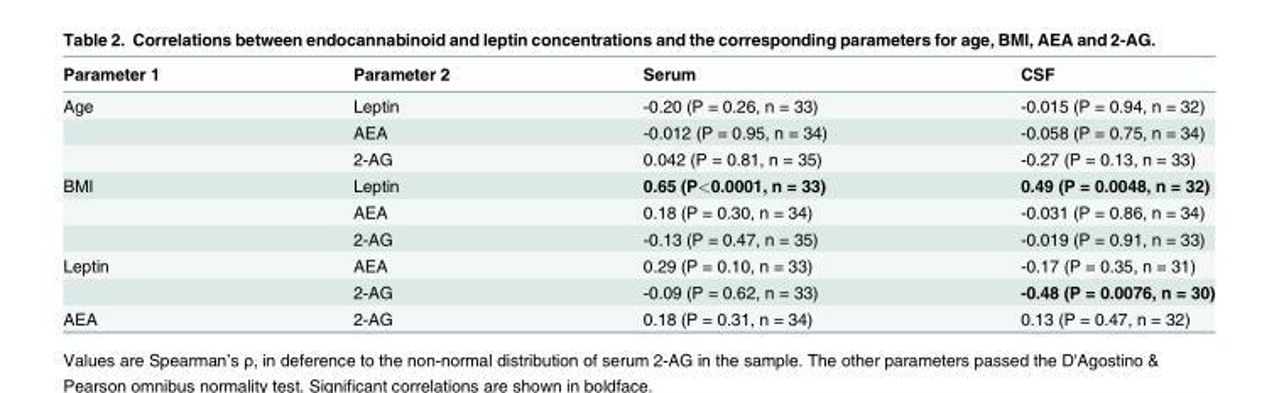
<table><thead><tr><td>Parameter 1</td><td>Parameter 2</td><td>Serum</td><td>CSF</td></tr></thead><tbody><tr><td rowspan="3">Age</td><td>Leptin</td><td>-0.20 (P = 0.26, n = 33)</td><td>-0.015 (P = 0.94, n = 32)</td></tr><tr><td>AEA</td><td>-0.012 (P = 0.95, n = 34)</td><td>-0.058 (P = 0.75, n = 34)</td></tr><tr><td>2-AG</td><td>0.042 (P = 0.81, n = 35)</td><td>-0.27 (P = 0.13, n = 33)</td></tr><tr><td rowspan="3">BMI</td><td>Leptin</td><td>0.65 (P&lt;0.0001, n = 33)</td><td>0.49 (P = 0.0048, n = 32)</td></tr><tr><td>AEA</td><td>0.18 (P = 0.30, n = 34)</td><td>-0.031 (P = 0.86, n = 34)</td></tr><tr><td>2-AG</td><td>-0.13 (P = 0.47, n = 35)</td><td>-0.019 (P = 0.91, n = 33)</td></tr><tr><td rowspan="2">Leptin</td><td>AEA</td><td>0.29 (P = 0.10, n = 33)</td><td>-0.17 (P = 0.35, n = 31)</td></tr><tr><td>2-AG</td><td>-0.09 (P = 0.62, n = 33)</td><td>-0.48 (P = 0.0076, n = 30)</td></tr><tr><td>AEA</td><td>2-AG</td><td>0.18 (P = 0.31, n = 34)</td><td>0.13 (P = 0.47, n = 32)</td></tr></tbody></table>